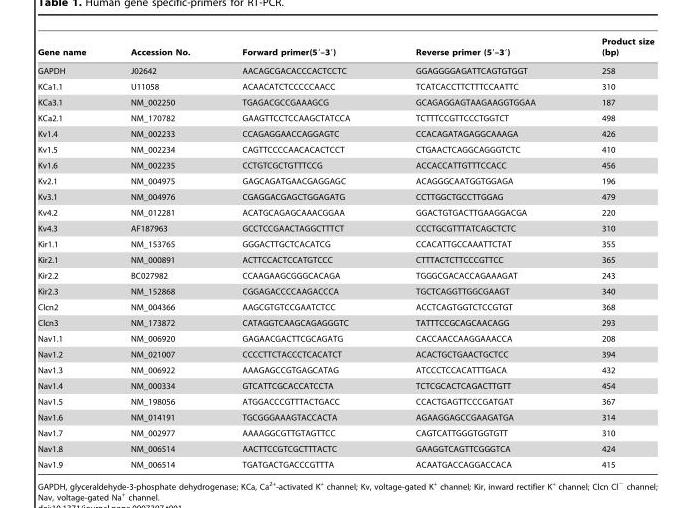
<table><thead><tr><td>Gene name</td><td>Accession No.</td><td>Forward primer(5′–3′)</td><td>Reverse primer (5′–3′)</td><td>Product size (bp)</td></tr></thead><tbody><tr><td>GAPDH</td><td>J02642</td><td>AACAGCGACACCCACTCCTC</td><td>GGAGGGGAGATTCAGTGTGGT</td><td>258</td></tr><tr><td>KCa1.1</td><td>U11058</td><td>ACAACATCTCCCCCAACC</td><td>TCATCACCTTCTTTCCAATTC</td><td>310</td></tr><tr><td>KCa3.1</td><td>NM_002250</td><td>TGAGACGCCGAAAGCG</td><td>GCAGAGGAGTAAGAAGGTGGAA</td><td>187</td></tr><tr><td>KCa2.1</td><td>NM_170782</td><td>GAAGTTCCTCCAAGCTATCCA</td><td>TCTTTCCGTTCCCTGGTCT</td><td>498</td></tr><tr><td>Kv1.4</td><td>NM_002233</td><td>CCAGAGGAACCAGGAGTC</td><td>CCACAGATAGAGGCAAAGA</td><td>426</td></tr><tr><td>Kv1.5</td><td>NM_002234</td><td>CAGTTCCCCAACACACTCCT</td><td>CTGAACTCAGGCAGGGTCTC</td><td>410</td></tr><tr><td>Kv1.6</td><td>NM_002235</td><td>CCTGTCGCTGTTTCCG</td><td>ACCACCATTGTTTCCACC</td><td>456</td></tr><tr><td>Kv2.1</td><td>NM_004975</td><td>GAGCAGATGAACGAGGAGC</td><td>ACAGGGCAATGGTGGAGA</td><td>196</td></tr><tr><td>Kv3.1</td><td>NM_004976</td><td>CGAGGACGAGCTGGAGATG</td><td>CCTTGGCTGCCTTGGAG</td><td>479</td></tr><tr><td>Kv4.2</td><td>NM_012281</td><td>ACATGCAGAGCAAACGGAA</td><td>GGACTGTGACTTGAAGGACGA</td><td>220</td></tr><tr><td>Kv4.3</td><td>AF187963</td><td>GCCTCCGAACTAGGCTTTCT</td><td>CCCTGCGTTTATCAGCTCTC</td><td>310</td></tr><tr><td>Kir1.1</td><td>NM_153765</td><td>GGGACTTGCTCACATCG</td><td>CCACATTGCCAAATTCTAT</td><td>355</td></tr><tr><td>Kir2.1</td><td>NM_000891</td><td>ACTTCCACTCCATGTCCC</td><td>CTTTACTCTTCCCGTTCC</td><td>365</td></tr><tr><td>Kir2.2</td><td>BC027982</td><td>CCAAGAAGCGGGCACAGA</td><td>TGGGCGACACCAGAAAGAT</td><td>243</td></tr><tr><td>Kir2.3</td><td>NM_152868</td><td>CGGAGACCCCAAGACCCA</td><td>TGCTCAGGTTGGCGAAGT</td><td>340</td></tr><tr><td>Clcn2</td><td>NM_004366</td><td>AAGCGTGTCCGAATCTCC</td><td>ACCTCAGTGGTCTCCGTGT</td><td>368</td></tr><tr><td>Clcn3</td><td>NM_173872</td><td>CATAGGTCAAGCAGAGGGTC</td><td>TATTTCCGCAGCAACAGG</td><td>293</td></tr><tr><td>Nav1.1</td><td>NM_006920</td><td>GAGAACGACTTCGCAGATG</td><td>CACCAACCAAGGAAACCA</td><td>208</td></tr><tr><td>Nav1.2</td><td>NM_021007</td><td>CCCCTTCTACCCTCACATCT</td><td>ACACTGCTGAACTGCTCC</td><td>394</td></tr><tr><td>Nav1.3</td><td>NM_006922</td><td>AAAGAGCCGTGAGCATAG</td><td>ATCCCTCCACATTTGACA</td><td>432</td></tr><tr><td>Nav1.4</td><td>NM_000334</td><td>GTCATTCGCACCATCCTA</td><td>TCTCGCACTCAGACTTGTT</td><td>454</td></tr><tr><td>Nav1.5</td><td>NM_198056</td><td>ATGGACCCGTTTACTGACC</td><td>CCACTGAGTTCCCGATGAT</td><td>367</td></tr><tr><td>Nav1.6</td><td>NM_014191</td><td>TGCGGGAAAGTACCACTA</td><td>AGAAGGAGCCGAAGATGA</td><td>314</td></tr><tr><td>Nav1.7</td><td>NM_002977</td><td>AAAAGGCGTTGTAGTTCC</td><td>CAGTCATTGGGTGGTGTT</td><td>310</td></tr><tr><td>Nav1.8</td><td>NM_006514</td><td>AACTTCCGTCGCTTTACTC</td><td>GAAGGTCAGTTCGGGTCA</td><td>424</td></tr><tr><td>Nav1.9</td><td>NM_006514</td><td>TGATGACTGACCCGTTTA</td><td>ACAATGACCAGGACCACA</td><td>415</td></tr></tbody></table>